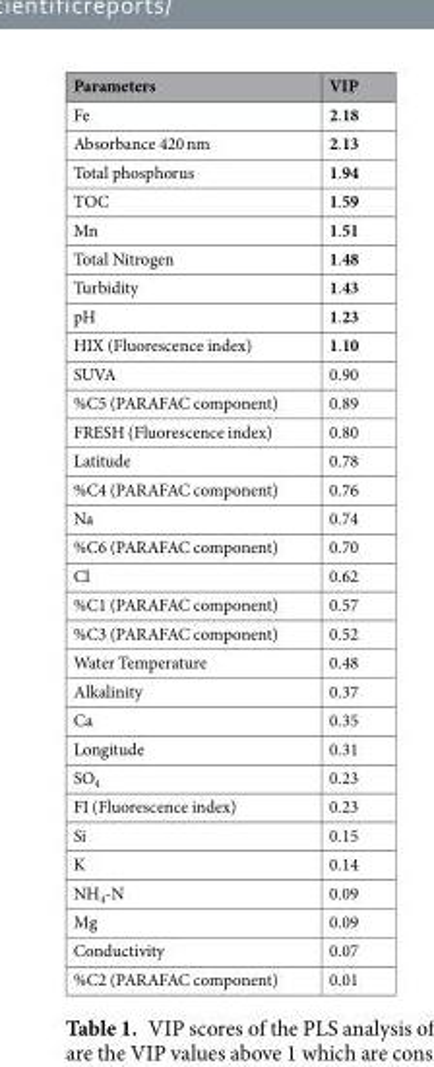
<table><thead><tr><td>Parameters</td><td>VIP</td></tr></thead><tbody><tr><td>Fe</td><td>2.18</td></tr><tr><td>Absorbance 420 nm</td><td>2.13</td></tr><tr><td>Total phosphorus</td><td>1.94</td></tr><tr><td>TOC</td><td>1.59</td></tr><tr><td>Mn</td><td>1.51</td></tr><tr><td>Total Nitrogen</td><td>1.48</td></tr><tr><td>Turbidity</td><td>1.43</td></tr><tr><td>pH</td><td>1.23</td></tr><tr><td>HIX (Fluorescence index)</td><td>1.10</td></tr><tr><td>SUVA</td><td>0.90</td></tr><tr><td>%C5 (PARAFAC component)</td><td>0.89</td></tr><tr><td>FRESH (Fluorescence index)</td><td>0.80</td></tr><tr><td>Latitude</td><td>0.78</td></tr><tr><td>%C4 (PARAFAC component)</td><td>0.76</td></tr><tr><td>Na</td><td>0.74</td></tr><tr><td>%C6 (PARAFAC component)</td><td>0.70</td></tr><tr><td>Cl</td><td>0.62</td></tr><tr><td>%C1 (PARAFAC component)</td><td>0.57</td></tr><tr><td>%C3 (PARAFAC component)</td><td>0.52</td></tr><tr><td>Water Temperature</td><td>0.48</td></tr><tr><td>Alkalinity</td><td>0.37</td></tr><tr><td>Ca</td><td>0.35</td></tr><tr><td>Longitude</td><td>0.31</td></tr><tr><td>SO<sub>4</sub></td><td>0.23</td></tr><tr><td>FI (Fluorescence index)</td><td>0.23</td></tr><tr><td>Si</td><td>0.15</td></tr><tr><td>K</td><td>0.14</td></tr><tr><td>NH<sub>4</sub>-N</td><td>0.09</td></tr><tr><td>Mg</td><td>0.09</td></tr><tr><td>Conductivity</td><td>0.07</td></tr><tr><td>%C2 (PARAFAC component)</td><td>0.01</td></tr></tbody></table>